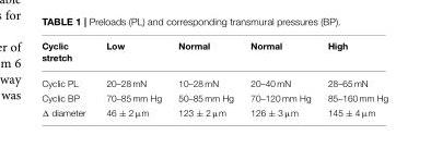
<table><thead><tr><td>Cyclic stretch</td><td>Low</td><td>Normal</td><td>Normal</td><td>High</td></tr></thead><tbody><tr><td>Cyclic PL</td><td>20–28 mN</td><td>10–28 mN</td><td>20–40 mN</td><td>28–65 mN</td></tr><tr><td>Cyclic BP</td><td>70–85 mm Hg</td><td>50–85 mm Hg</td><td>70–120 mm Hg</td><td>85–160 mm Hg</td></tr><tr><td>Δ diameter</td><td>46 ± 2 µm</td><td>123 ± 2 µm</td><td>126 ± 3 µm</td><td>145 ± 4 µm</td></tr></tbody></table>